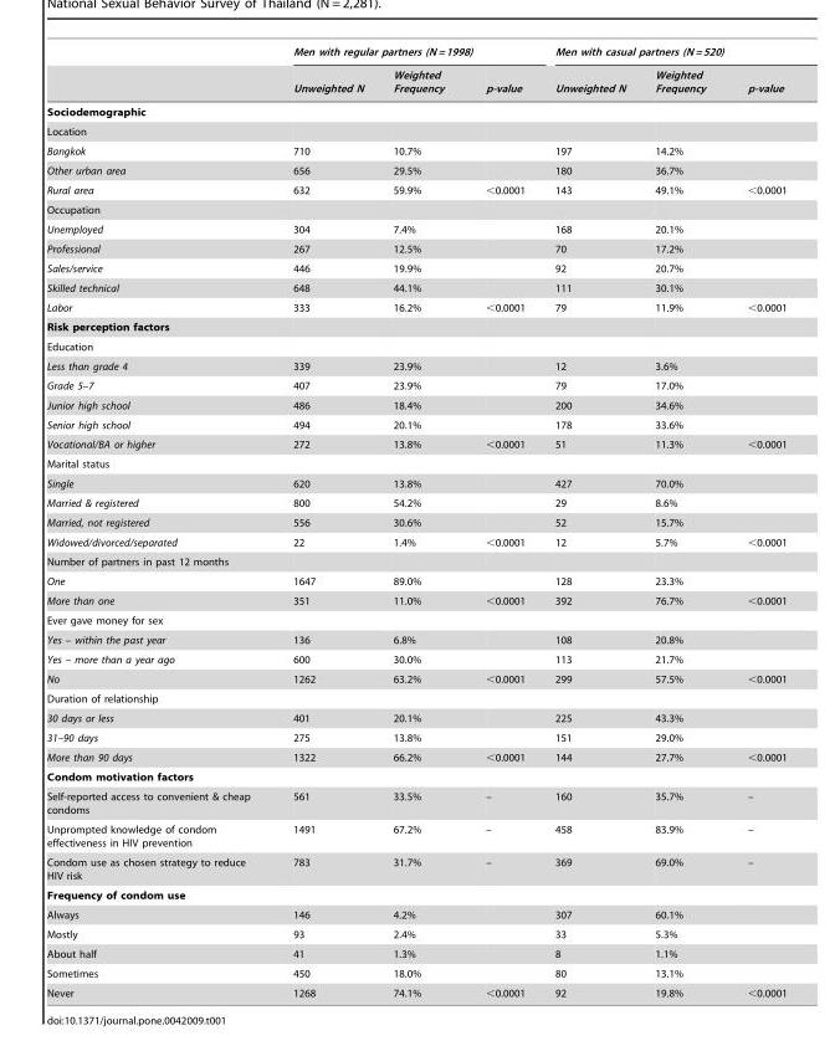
<table><thead><tr><td rowspan="2"></td><td colspan="3">Men with regular partners (N = 1998)</td><td colspan="3">Men with casual partners (N = 520)</td></tr><tr><td>Unweighted N</td><td>Weighted Frequency</td><td>p-value</td><td>Unweighted N</td><td>Weighted Frequency</td><td>p-value</td></tr></thead><tbody><tr><td colspan="7">Sociodemographic</td></tr><tr><td colspan="7">Location</td></tr><tr><td>Bangkok</td><td>710</td><td>10.7%</td><td></td><td>197</td><td>14.2%</td><td></td></tr><tr><td>Other urban area</td><td>656</td><td>29.5%</td><td></td><td>180</td><td>36.7%</td><td></td></tr><tr><td>Rural area</td><td>632</td><td>59.9%</td><td>&lt;0.0001</td><td>143</td><td>49.1%</td><td>&lt;0.0001</td></tr><tr><td colspan="7">Occupation</td></tr><tr><td>Unemployed</td><td>304</td><td>7.4%</td><td></td><td>168</td><td>20.1%</td><td></td></tr><tr><td>Professional</td><td>267</td><td>12.5%</td><td></td><td>70</td><td>17.2%</td><td></td></tr><tr><td>Sales/service</td><td>446</td><td>19.9%</td><td></td><td>92</td><td>20.7%</td><td></td></tr><tr><td>Skilled technical</td><td>648</td><td>44.1%</td><td></td><td>111</td><td>30.1%</td><td></td></tr><tr><td>Labor</td><td>333</td><td>16.2%</td><td>&lt;0.0001</td><td>79</td><td>11.9%</td><td>&lt;0.0001</td></tr><tr><td colspan="7">Risk perception factors</td></tr><tr><td colspan="7">Education</td></tr><tr><td>Less than grade 4</td><td>339</td><td>23.9%</td><td></td><td>12</td><td>3.6%</td><td></td></tr><tr><td>Grade 5–7</td><td>407</td><td>23.9%</td><td></td><td>79</td><td>17.0%</td><td></td></tr><tr><td>Junior high school</td><td>486</td><td>18.4%</td><td></td><td>200</td><td>34.6%</td><td></td></tr><tr><td>Senior high school</td><td>494</td><td>20.1%</td><td></td><td>178</td><td>33.6%</td><td></td></tr><tr><td>Vocational/BA or higher</td><td>272</td><td>13.8%</td><td>&lt;0.0001</td><td>51</td><td>11.3%</td><td>&lt;0.0001</td></tr><tr><td colspan="7">Marital status</td></tr><tr><td>Single</td><td>620</td><td>13.8%</td><td></td><td>427</td><td>70.0%</td><td></td></tr><tr><td>Married &amp; registered</td><td>800</td><td>54.2%</td><td></td><td>29</td><td>8.6%</td><td></td></tr><tr><td>Married, not registered</td><td>556</td><td>30.6%</td><td></td><td>52</td><td>15.7%</td><td></td></tr><tr><td>Widowed/divorced/separated</td><td>22</td><td>1.4%</td><td>&lt;0.0001</td><td>12</td><td>5.7%</td><td>&lt;0.0001</td></tr><tr><td colspan="7">Number of partners in past 12 months</td></tr><tr><td>One</td><td>1647</td><td>89.0%</td><td></td><td>128</td><td>23.3%</td><td></td></tr><tr><td>More than one</td><td>351</td><td>11.0%</td><td>&lt;0.0001</td><td>392</td><td>76.7%</td><td>&lt;0.0001</td></tr><tr><td colspan="7">Ever gave money for sex</td></tr><tr><td>Yes – within the past year</td><td>136</td><td>6.8%</td><td></td><td>108</td><td>20.8%</td><td></td></tr><tr><td>Yes – more than a year ago</td><td>600</td><td>30.0%</td><td></td><td>113</td><td>21.7%</td><td></td></tr><tr><td>No</td><td>1262</td><td>63.2%</td><td>&lt;0.0001</td><td>299</td><td>57.5%</td><td>&lt;0.0001</td></tr><tr><td colspan="7">Duration of relationship</td></tr><tr><td>30 days or less</td><td>401</td><td>20.1%</td><td></td><td>225</td><td>43.3%</td><td></td></tr><tr><td>31–90 days</td><td>275</td><td>13.8%</td><td></td><td>151</td><td>29.0%</td><td></td></tr><tr><td>More than 90 days</td><td>1322</td><td>66.2%</td><td>&lt;0.0001</td><td>144</td><td>27.7%</td><td>&lt;0.0001</td></tr><tr><td colspan="7">Condom motivation factors</td></tr><tr><td>Self-reported access to convenient &amp; cheap condoms</td><td>561</td><td>33.5%</td><td>–</td><td>160</td><td>35.7%</td><td>–</td></tr><tr><td>Unprompted knowledge of condom effectiveness in HIV prevention</td><td>1491</td><td>67.2%</td><td>–</td><td>458</td><td>83.9%</td><td>–</td></tr><tr><td>Condom use as chosen strategy to reduce HIV risk</td><td>783</td><td>31.7%</td><td>–</td><td>369</td><td>69.0%</td><td>–</td></tr><tr><td colspan="7">Frequency of condom use</td></tr><tr><td>Always</td><td>146</td><td>4.2%</td><td></td><td>307</td><td>60.1%</td><td></td></tr><tr><td>Mostly</td><td>93</td><td>2.4%</td><td></td><td>33</td><td>5.3%</td><td></td></tr><tr><td>About half</td><td>41</td><td>1.3%</td><td></td><td>8</td><td>1.1%</td><td></td></tr><tr><td>Sometimes</td><td>450</td><td>18.0%</td><td></td><td>80</td><td>13.1%</td><td></td></tr><tr><td>Never</td><td>1268</td><td>74.1%</td><td>&lt;0.0001</td><td>92</td><td>19.8%</td><td>&lt;0.0001</td></tr></tbody></table>